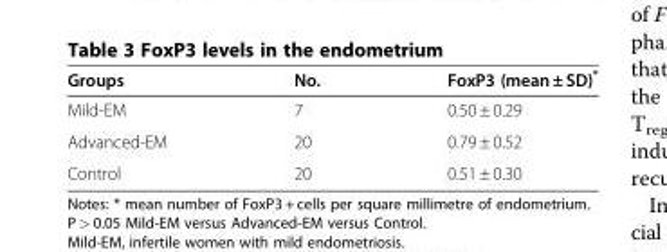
<table><thead><tr><td>Groups</td><td>No.</td><td>FoxP3 (mean ± SD)*</td></tr></thead><tbody><tr><td>Mild-EM</td><td>7</td><td>0.50 ± 0.29</td></tr><tr><td>Advanced-EM</td><td>20</td><td>0.79 ± 0.52</td></tr><tr><td>Control</td><td>20</td><td>0.51 ± 0.30</td></tr></tbody></table>